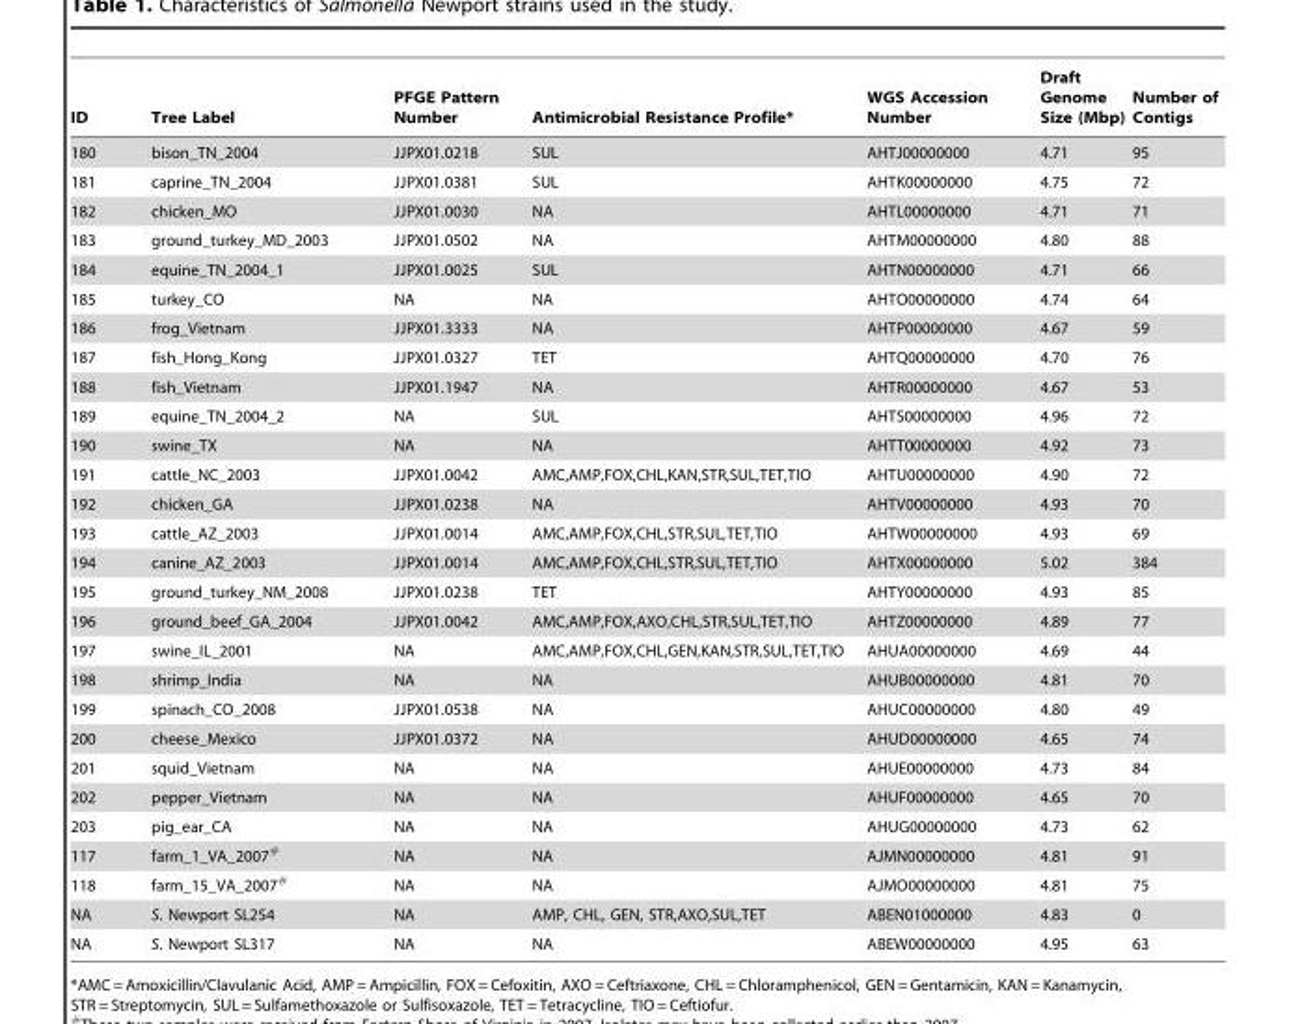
<table><thead><tr><td>ID</td><td>Tree Label</td><td>PFGE Pattern Number</td><td>Antimicrobial Resistance Profile*</td><td>WGS Accession Number</td><td>Draft Genome Size (Mbp)</td><td>Number of Contigs</td></tr></thead><tbody><tr><td>180</td><td>bison_TN_2004</td><td>JJPX01.0218</td><td>SUL</td><td>AHTJ00000000</td><td>4.71</td><td>95</td></tr><tr><td>181</td><td>caprine_TN_2004</td><td>JJPX01.0381</td><td>SUL</td><td>AHTK00000000</td><td>4.75</td><td>72</td></tr><tr><td>182</td><td>chicken_MO</td><td>JJPX01.0030</td><td>NA</td><td>AHTL00000000</td><td>4.71</td><td>71</td></tr><tr><td>183</td><td>ground_turkey_MD_2003</td><td>JJPX01.0502</td><td>NA</td><td>AHTM00000000</td><td>4.80</td><td>88</td></tr><tr><td>184</td><td>equine_TN_2004_1</td><td>JJPX01.0025</td><td>SUL</td><td>AHTN00000000</td><td>4.71</td><td>66</td></tr><tr><td>185</td><td>turkey_CO</td><td>NA</td><td>NA</td><td>AHTO00000000</td><td>4.74</td><td>64</td></tr><tr><td>186</td><td>frog_Vietnam</td><td>JJPX01.3333</td><td>NA</td><td>AHTP00000000</td><td>4.67</td><td>59</td></tr><tr><td>187</td><td>fish_Hong_Kong</td><td>JJPX01.0327</td><td>TET</td><td>AHTQ00000000</td><td>4.70</td><td>76</td></tr><tr><td>188</td><td>fish_Vietnam</td><td>JJPX01.1947</td><td>NA</td><td>AHTR00000000</td><td>4.67</td><td>53</td></tr><tr><td>189</td><td>equine_TN_2004_2</td><td>NA</td><td>SUL</td><td>AHTS00000000</td><td>4.96</td><td>72</td></tr><tr><td>190</td><td>swine_TX</td><td>NA</td><td>NA</td><td>AHTT00000000</td><td>4.92</td><td>73</td></tr><tr><td>191</td><td>cattle_NC_2003</td><td>JJPX01.0042</td><td>AMC,AMP,FOX,CHL,KAN,STR,SUL,TET,TIO</td><td>AHTU00000000</td><td>4.90</td><td>72</td></tr><tr><td>192</td><td>chicken_GA</td><td>JJPX01.0238</td><td>NA</td><td>AHTV00000000</td><td>4.93</td><td>70</td></tr><tr><td>193</td><td>cattle_AZ_2003</td><td>JJPX01.0014</td><td>AMC,AMP,FOX,CHL,STR,SUL,TET,TIO</td><td>AHTW00000000</td><td>4.93</td><td>69</td></tr><tr><td>194</td><td>canine_AZ_2003</td><td>JJPX01.0014</td><td>AMC,AMP,FOX,CHL,STR,SUL,TET,TIO</td><td>AHTX00000000</td><td>5.02</td><td>384</td></tr><tr><td>195</td><td>ground_turkey_NM_2008</td><td>JJPX01.0238</td><td>TET</td><td>AHTY00000000</td><td>4.93</td><td>85</td></tr><tr><td>196</td><td>ground_beef_GA_2004</td><td>JJPX01.0042</td><td>AMC,AMP,FOX,AXO,CHL,STR,SUL,TET,TIO</td><td>AHTZ00000000</td><td>4.89</td><td>77</td></tr><tr><td>197</td><td>swine_IL_2001</td><td>NA</td><td>AMC,AMP,FOX,CHL,GEN,KAN,STR,SUL,TET,TIO</td><td>AHUA00000000</td><td>4.69</td><td>44</td></tr><tr><td>198</td><td>shrimp_India</td><td>NA</td><td>NA</td><td>AHUB00000000</td><td>4.81</td><td>70</td></tr><tr><td>199</td><td>spinach_CO_2008</td><td>JJPX01.0538</td><td>NA</td><td>AHUC00000000</td><td>4.80</td><td>49</td></tr><tr><td>200</td><td>cheese_Mexico</td><td>JJPX01.0372</td><td>NA</td><td>AHUD00000000</td><td>4.65</td><td>74</td></tr><tr><td>201</td><td>squid_Vietnam</td><td>NA</td><td>NA</td><td>AHUE00000000</td><td>4.73</td><td>84</td></tr><tr><td>202</td><td>pepper_Vietnam</td><td>NA</td><td>NA</td><td>AHUF00000000</td><td>4.65</td><td>70</td></tr><tr><td>203</td><td>pig_ear_CA</td><td>NA</td><td>NA</td><td>AHUG00000000</td><td>4.73</td><td>62</td></tr><tr><td>117</td><td>farm_1_VA_2007#</td><td>NA</td><td>NA</td><td>AJMN00000000</td><td>4.81</td><td>91</td></tr><tr><td>118</td><td>farm_15_VA_2007#</td><td>NA</td><td>NA</td><td>AJMO00000000</td><td>4.81</td><td>75</td></tr><tr><td>NA</td><td>S. Newport SL254</td><td>NA</td><td>AMP, CHL, GEN, STR,AXO,SUL,TET</td><td>ABEN01000000</td><td>4.83</td><td>0</td></tr><tr><td>NA</td><td>S. Newport SL317</td><td>NA</td><td>NA</td><td>ABEW00000000</td><td>4.95</td><td>63</td></tr></tbody></table>